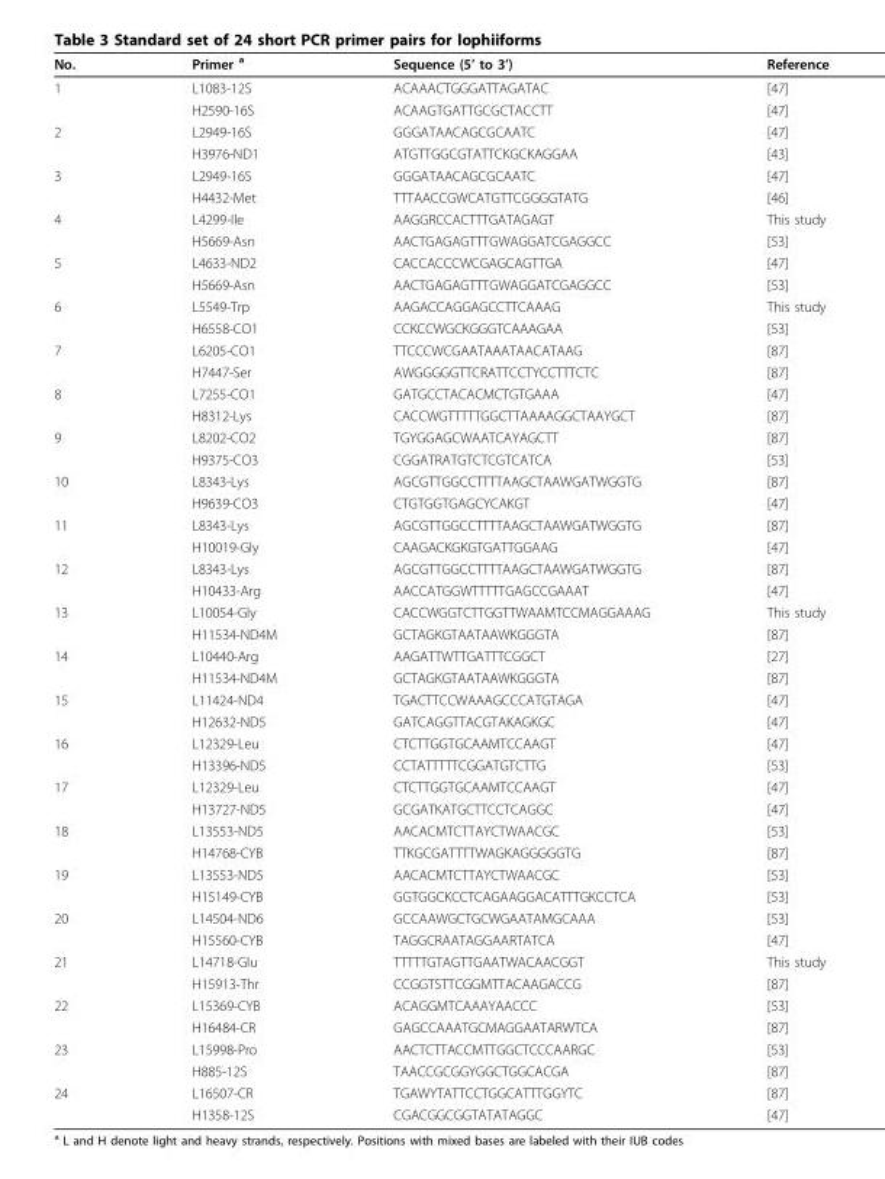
<table><thead><tr><td>No.</td><td>Primer <sup>a</sup></td><td>Sequence (5’ to 3’)</td><td>Reference</td></tr></thead><tbody><tr><td rowspan="2">1</td><td>L1083-12S</td><td>ACAAACTGGGATTAGATAC</td><td>[47]</td></tr><tr><td>H2590-16S</td><td>ACAAGTGATTGCGCTACCTT</td><td>[47]</td></tr><tr><td rowspan="2">2</td><td>L2949-16S</td><td>GGGATAACAGCGCAATC</td><td>[47]</td></tr><tr><td>H3976-ND1</td><td>ATGTTGGCGTATTCKGCKAGGAA</td><td>[43]</td></tr><tr><td rowspan="2">3</td><td>L2949-16S</td><td>GGGATAACAGCGCAATC</td><td>[47]</td></tr><tr><td>H4432-Met</td><td>TTTAACCGWCATGTTCGGGGTATG</td><td>[46]</td></tr><tr><td rowspan="2">4</td><td>L4299-Ile</td><td>AAGGRCCACTTTGATAGAGT</td><td>This study</td></tr><tr><td>H5669-Asn</td><td>AACTGAGAGTTTGWAGGATCGAGGCC</td><td>[53]</td></tr><tr><td rowspan="2">5</td><td>L4633-ND2</td><td>CACCACCCWCGAGCAGTTGA</td><td>[47]</td></tr><tr><td>H5669-Asn</td><td>AACTGAGAGTTTGWAGGATCGAGGCC</td><td>[53]</td></tr><tr><td rowspan="2">6</td><td>L5549-Trp</td><td>AAGACCAGGAGCCTTCAAAG</td><td>This study</td></tr><tr><td>H6558-CO1</td><td>CCKCCWGCKGGGTCAAAGAA</td><td>[53]</td></tr><tr><td rowspan="2">7</td><td>L6205-CO1</td><td>TTCCCWCGAATAAATAACATAAG</td><td>[87]</td></tr><tr><td>H7447-Ser</td><td>AWGGGGGTTCRATTCCTYCCTTTCTC</td><td>[87]</td></tr><tr><td rowspan="2">8</td><td>L7255-CO1</td><td>GATGCCTACACMCTGTGAAA</td><td>[47]</td></tr><tr><td>H8312-Lys</td><td>CACCWGTTTTTGGCTTAAAAGGCTAAYGCT</td><td>[87]</td></tr><tr><td rowspan="2">9</td><td>L8202-CO2</td><td>TGYGGAGCWAATCAYAGCTT</td><td>[87]</td></tr><tr><td>H9375-CO3</td><td>CGGATRATGTCTCGTCATCA</td><td>[53]</td></tr><tr><td rowspan="2">10</td><td>L8343-Lys</td><td>AGCGTTGGCCTTTTAAGCTAAWGATWGGTG</td><td>[87]</td></tr><tr><td>H9639-CO3</td><td>CTGTGGTGAGCYCAKGT</td><td>[47]</td></tr><tr><td rowspan="2">11</td><td>L8343-Lys</td><td>AGCGTTGGCCTTTTAAGCTAAWGATWGGTG</td><td>[87]</td></tr><tr><td>H10019-Gly</td><td>CAAGACKGKGTGATTGGAAG</td><td>[47]</td></tr><tr><td rowspan="2">12</td><td>L8343-Lys</td><td>AGCGTTGGCCTTTTAAGCTAAWGATWGGTG</td><td>[87]</td></tr><tr><td>H10433-Arg</td><td>AACCATGGWTTTTTGAGCCGAAAT</td><td>[47]</td></tr><tr><td rowspan="2">13</td><td>L10054-Gly</td><td>CACCWGGTCTTGGTTWAAMTCCMAGGAAAG</td><td>This study</td></tr><tr><td>H11534-ND4M</td><td>GCTAGKGTAATAAWKGGGTA</td><td>[87]</td></tr><tr><td rowspan="2">14</td><td>L10440-Arg</td><td>AAGATTWTTGATTTCGGCT</td><td>[27]</td></tr><tr><td>H11534-ND4M</td><td>GCTAGKGTAATAAWKGGGTA</td><td>[87]</td></tr><tr><td rowspan="2">15</td><td>L11424-ND4</td><td>TGACTTCCWAAAGCCCATGTAGA</td><td>[47]</td></tr><tr><td>H12632-ND5</td><td>GATCAGGTTACGTAKAGKGC</td><td>[47]</td></tr><tr><td rowspan="2">16</td><td>L12329-Leu</td><td>CTCTTGGTGCAAMTCCAAGT</td><td>[47]</td></tr><tr><td>H13396-ND5</td><td>CCTATTTTTCGGATGTCTTG</td><td>[53]</td></tr><tr><td rowspan="2">17</td><td>L12329-Leu</td><td>CTCTTGGTGCAAMTCCAAGT</td><td>[47]</td></tr><tr><td>H13727-ND5</td><td>GCGATKATGCTTCCTCAGGC</td><td>[47]</td></tr><tr><td rowspan="2">18</td><td>L13553-ND5</td><td>AACACMTCTTAYCTWAACGC</td><td>[53]</td></tr><tr><td>H14768-CYB</td><td>TTKGCGATTTTWAGKAGGGGGTG</td><td>[87]</td></tr><tr><td rowspan="2">19</td><td>L13553-ND5</td><td>AACACMTCTTAYCTWAACGC</td><td>[53]</td></tr><tr><td>H15149-CYB</td><td>GGTGGCKCCTCAGAAGGACATTTGKCCTCA</td><td>[53]</td></tr><tr><td rowspan="2">20</td><td>L14504-ND6</td><td>GCCAAWGCTGCWGAATAMGCAAA</td><td>[53]</td></tr><tr><td>H15560-CYB</td><td>TAGGCRAATAGGAARTATCA</td><td>[47]</td></tr><tr><td rowspan="2">21</td><td>L14718-Glu</td><td>TTTTTGTAGTTGAATWACAACGGT</td><td>This study</td></tr><tr><td>H15913-Thr</td><td>CCGGTSTTCGGMTTACAAGACCG</td><td>[87]</td></tr><tr><td rowspan="2">22</td><td>L15369-CYB</td><td>ACAGGMTCAAAYAACCC</td><td>[53]</td></tr><tr><td>H16484-CR</td><td>GAGCCAAATGCMAGGAATARWTCA</td><td>[87]</td></tr><tr><td rowspan="2">23</td><td>L15998-Pro</td><td>AACTCTTACCMTTGGCTCCCAARGC</td><td>[53]</td></tr><tr><td>H885-12S</td><td>TAACCGCGGYGGCTGGCACGA</td><td>[87]</td></tr><tr><td rowspan="2">24</td><td>L16507-CR</td><td>TGAWYTATTCCTGGCATTTGGYTC</td><td>[87]</td></tr><tr><td>H1358-12S</td><td>CGACGGCGGTATATAGGC</td><td>[47]</td></tr></tbody></table>